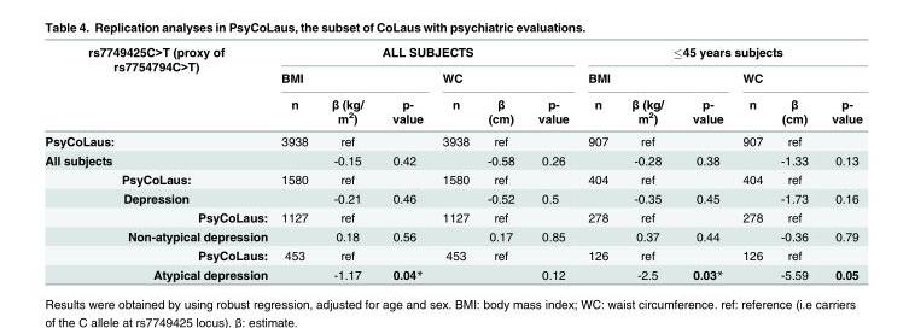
<table><thead><tr><td rowspan="3">rs7749425C&gt;T (proxy of rs7754794C&gt;T)</td><td colspan="6">ALL SUBJECTS</td><td colspan="6">≤45 years subjects</td></tr><tr><td colspan="3">BMI</td><td colspan="3">WC</td><td colspan="3">BMI</td><td colspan="3">WC</td></tr><tr><td>n</td><td>β (kg/ m<sup>2</sup>)</td><td>p- value</td><td>n</td><td>β (cm)</td><td>p- value</td><td>n</td><td>β (kg/ m<sup>2</sup>)</td><td>p- value</td><td>n</td><td>β (cm)</td><td>p- value</td></tr></thead><tbody><tr><td>PsyCoLaus:</td><td>3938</td><td>ref</td><td></td><td>3938</td><td>ref</td><td></td><td>907</td><td>ref</td><td></td><td>907</td><td>ref</td><td></td></tr><tr><td>All subjects</td><td></td><td>-0.15</td><td>0.42</td><td></td><td>-0.58</td><td>0.26</td><td></td><td>-0.28</td><td>0.38</td><td></td><td>-1.33</td><td>0.13</td></tr><tr><td>PsyCoLaus:</td><td>1580</td><td>ref</td><td></td><td>1580</td><td>ref</td><td></td><td>404</td><td>ref</td><td></td><td>404</td><td>ref</td><td></td></tr><tr><td>Depression</td><td></td><td>-0.21</td><td>0.46</td><td></td><td>-0.52</td><td>0.5</td><td></td><td>-0.35</td><td>0.45</td><td></td><td>-1.73</td><td>0.16</td></tr><tr><td>PsyCoLaus:</td><td>1127</td><td>ref</td><td></td><td>1127</td><td>ref</td><td></td><td>278</td><td>ref</td><td></td><td>278</td><td>ref</td><td></td></tr><tr><td>Non-atypical depression</td><td></td><td>0.18</td><td>0.56</td><td></td><td>0.17</td><td>0.85</td><td></td><td>0.37</td><td>0.44</td><td></td><td>-0.36</td><td>0.79</td></tr><tr><td>PsyCoLaus:</td><td>453</td><td>ref</td><td></td><td>453</td><td>ref</td><td></td><td>126</td><td>ref</td><td></td><td>126</td><td>ref</td><td></td></tr><tr><td>Atypical depression</td><td></td><td>-1.17</td><td>0.04*</td><td></td><td></td><td>0.12</td><td></td><td>-2.5</td><td>0.03*</td><td></td><td>-5.59</td><td>0.05</td></tr></tbody></table>